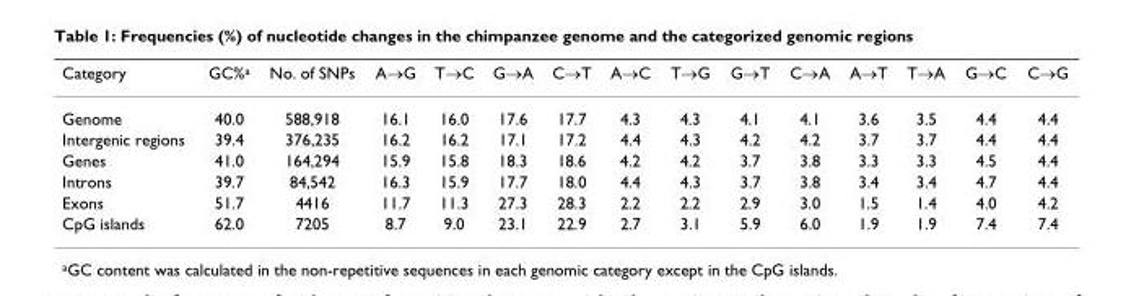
<table><thead><tr><td>Category</td><td>GC%a</td><td>No. of SNPs</td><td>A→G</td><td>T→C</td><td>G→A</td><td>C→T</td><td>A→C</td><td>T→G</td><td>G→T</td><td>C→A</td><td>A→T</td><td>T→A</td><td>G→C</td><td>C→G</td></tr></thead><tbody><tr><td>Genome</td><td>40.0</td><td>588,918</td><td>16.1</td><td>16.0</td><td>17.6</td><td>17.7</td><td>4.3</td><td>4.3</td><td>4.1</td><td>4.1</td><td>3.6</td><td>3.5</td><td>4.4</td><td>4.4</td></tr><tr><td>Intergenic regions</td><td>39.4</td><td>376,235</td><td>16.2</td><td>16.2</td><td>17.1</td><td>17.2</td><td>4.4</td><td>4.3</td><td>4.2</td><td>4.2</td><td>3.7</td><td>3.7</td><td>4.4</td><td>4.4</td></tr><tr><td>Genes</td><td>41.0</td><td>164,294</td><td>15.9</td><td>15.8</td><td>18.3</td><td>18.6</td><td>4.2</td><td>4.2</td><td>3.7</td><td>3.8</td><td>3.3</td><td>3.3</td><td>4.5</td><td>4.4</td></tr><tr><td>Introns</td><td>39.7</td><td>84,542</td><td>16.3</td><td>15.9</td><td>17.7</td><td>18.0</td><td>4.4</td><td>4.3</td><td>3.7</td><td>3.8</td><td>3.4</td><td>3.4</td><td>4.7</td><td>4.4</td></tr><tr><td>Exons</td><td>51.7</td><td>4416</td><td>11.7</td><td>11.3</td><td>27.3</td><td>28.3</td><td>2.2</td><td>2.2</td><td>2.9</td><td>3.0</td><td>1.5</td><td>1.4</td><td>4.0</td><td>4.2</td></tr><tr><td>CpG islands</td><td>62.0</td><td>7205</td><td>8.7</td><td>9.0</td><td>23.1</td><td>22.9</td><td>2.7</td><td>3.1</td><td>5.9</td><td>6.0</td><td>1.9</td><td>1.9</td><td>7.4</td><td>7.4</td></tr></tbody></table>